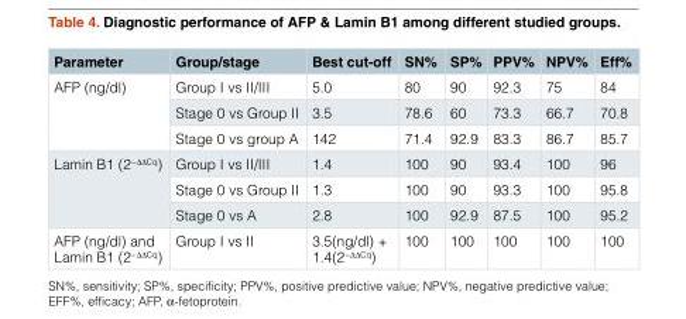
<table><thead><tr><td>Parameter</td><td>Group/stage</td><td>Best cut-off</td><td>SN%</td><td>SP%</td><td>PPV%</td><td>NPV%</td><td>Eff%</td></tr></thead><tbody><tr><td rowspan="3">AFP (ng/dl)</td><td>Group I vs II/III</td><td>5.0</td><td>80</td><td>90</td><td>92.3</td><td>75</td><td>84</td></tr><tr><td>Stage 0 vs Group II</td><td>3.5</td><td>78.6</td><td>60</td><td>73.3</td><td>66.7</td><td>70.8</td></tr><tr><td>Stage 0 vs group A</td><td>142</td><td>71.4</td><td>92.9</td><td>83.3</td><td>86.7</td><td>85.7</td></tr><tr><td rowspan="3">Lamin B1 (2<sup>−ΔΔCq</sup>)</td><td>Group I vs II/III</td><td>1.4</td><td>100</td><td>90</td><td>93.4</td><td>100</td><td>96</td></tr><tr><td>Stage 0 vs Group II</td><td>1.3</td><td>100</td><td>90</td><td>93.3</td><td>100</td><td>95.8</td></tr><tr><td>Stage 0 vs A</td><td>2.8</td><td>100</td><td>92.9</td><td>87.5</td><td>100</td><td>95.2</td></tr><tr><td>AFP (ng/dl) and Lamin B1 (2<sup>−ΔΔCq</sup>)</td><td>Group I vs II</td><td>3.5(ng/dl) + 1.4(2<sup>−ΔΔCq</sup>)</td><td>100</td><td>100</td><td>100</td><td>100</td><td>100</td></tr></tbody></table>